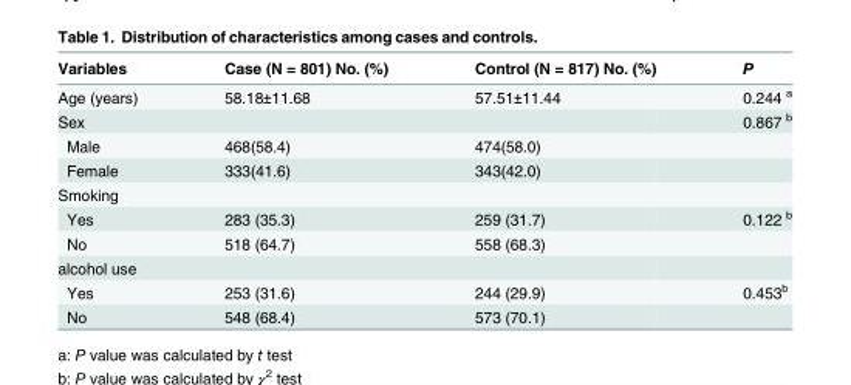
<table><thead><tr><td>Variables</td><td>Case (N = 801) No. (%)</td><td>Control (N = 817) No. (%)</td><td>P</td></tr></thead><tbody><tr><td>Age (years)</td><td>58.18±11.68</td><td>57.51±11.44</td><td>0.244 <sup>a</sup></td></tr><tr><td>Sex</td><td></td><td></td><td>0.867 <sup>b</sup></td></tr><tr><td>Male</td><td>468(58.4)</td><td>474(58.0)</td><td></td></tr><tr><td>Female</td><td>333(41.6)</td><td>343(42.0)</td><td></td></tr><tr><td colspan="4">Smoking</td></tr><tr><td>Yes</td><td>283 (35.3)</td><td>259 (31.7)</td><td>0.122 <sup>b</sup></td></tr><tr><td>No</td><td>518 (64.7)</td><td>558 (68.3)</td><td></td></tr><tr><td colspan="4">alcohol use</td></tr><tr><td>Yes</td><td>253 (31.6)</td><td>244 (29.9)</td><td>0.453<sup>b</sup></td></tr><tr><td>No</td><td>548 (68.4)</td><td>573 (70.1)</td><td></td></tr></tbody></table>